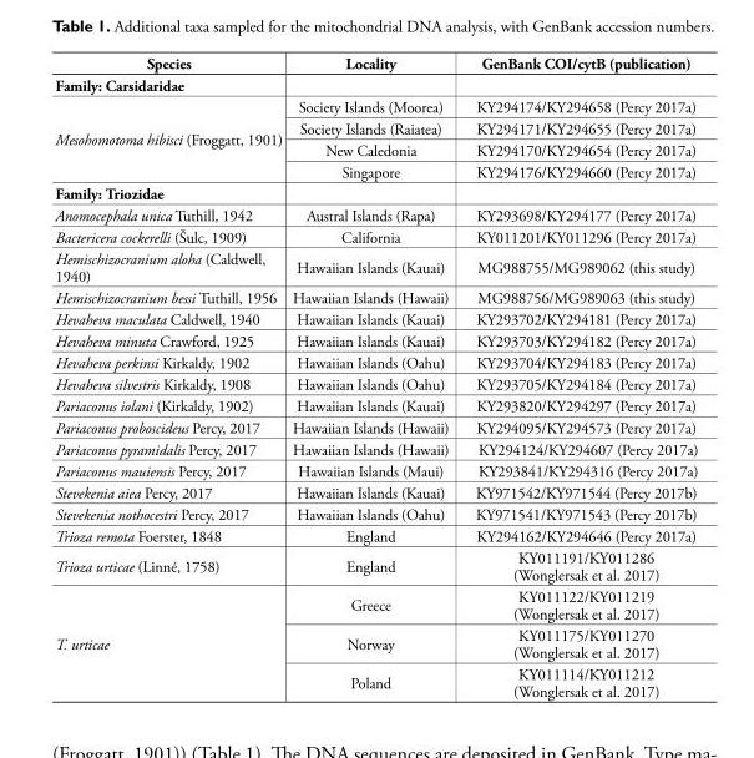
<table><thead><tr><td>Species</td><td>Locality</td><td>GenBank COI/cytB (publication)</td></tr></thead><tbody><tr><td colspan="3">Family: Carsidaridae</td></tr><tr><td rowspan="4">Mesohomotoma hibisci (Froggatt, 1901)</td><td>Society Islands (Moorea)</td><td>KY294174/KY294658 (Percy 2017a)</td></tr><tr><td>Society Islands (Raiatea)</td><td>KY294171/KY294655 (Percy 2017a)</td></tr><tr><td>New Caledonia</td><td>KY294170/KY294654 (Percy 2017a)</td></tr><tr><td>Singapore</td><td>KY294176/KY294660 (Percy 2017a)</td></tr><tr><td colspan="3">Family: Triozidae</td></tr><tr><td>Anomocephala unica Tuthill, 1942</td><td>Austral Islands (Rapa)</td><td>KY293698/KY294177 (Percy 2017a)</td></tr><tr><td>Bactericera cockerelli (Šulc, 1909)</td><td>California</td><td>KY011201/KY011296 (Percy 2017a)</td></tr><tr><td>Hemischizocranium aloha (Caldwell, 1940)</td><td>Hawaiian Islands (Kauai)</td><td>MG988755/MG989062 (this study)</td></tr><tr><td>Hemischizocranium bessi Tuthill, 1956</td><td>Hawaiian Islands (Hawaii)</td><td>MG988756/MG989063 (this study)</td></tr><tr><td>Hevaheva maculata Caldwell, 1940</td><td>Hawaiian Islands (Kauai)</td><td>KY293702/KY294181 (Percy 2017a)</td></tr><tr><td>Hevaheva minuta Crawford, 1925</td><td>Hawaiian Islands (Kauai)</td><td>KY293703/KY294182 (Percy 2017a)</td></tr><tr><td>Hevaheva perkinsi Kirkaldy, 1902</td><td>Hawaiian Islands (Oahu)</td><td>KY293704/KY294183 (Percy 2017a)</td></tr><tr><td>Hevaheva silvestris Kirkaldy, 1908</td><td>Hawaiian Islands (Oahu)</td><td>KY293705/KY294184 (Percy 2017a)</td></tr><tr><td>Pariaconus iolani (Kirkaldy, 1902)</td><td>Hawaiian Islands (Kauai)</td><td>KY293820/KY294297 (Percy 2017a)</td></tr><tr><td>Pariaconus proboscideus Percy, 2017</td><td>Hawaiian Islands (Hawaii)</td><td>KY294095/KY294573 (Percy 2017a)</td></tr><tr><td>Pariaconus pyramidalis Percy, 2017</td><td>Hawaiian Islands (Hawaii)</td><td>KY294124/KY294607 (Percy 2017a)</td></tr><tr><td>Pariaconus mauiensis Percy, 2017</td><td>Hawaiian Islands (Maui)</td><td>KY293841/KY294316 (Percy 2017a)</td></tr><tr><td>Stevekenia aiea Percy, 2017</td><td>Hawaiian Islands (Kauai)</td><td>KY971542/KY971544 (Percy 2017b)</td></tr><tr><td>Stevekenia nothocestri Percy, 2017</td><td>Hawaiian Islands (Oahu)</td><td>KY971541/KY971543 (Percy 2017b)</td></tr><tr><td>Trioza remota Foerster, 1848</td><td>England</td><td>KY294162/KY294646 (Percy 2017a)</td></tr><tr><td>Trioza urticae (Linné, 1758)</td><td>England</td><td>KY011191/KY011286 (Wonglersak et al. 2017)</td></tr><tr><td rowspan="3">T. urticae</td><td>Greece</td><td>KY011122/KY011219 (Wonglersak et al. 2017)</td></tr><tr><td>Norway</td><td>KY011175/KY011270 (Wonglersak et al. 2017)</td></tr><tr><td>Poland</td><td>KY011114/KY011212 (Wonglersak et al. 2017)</td></tr></tbody></table>